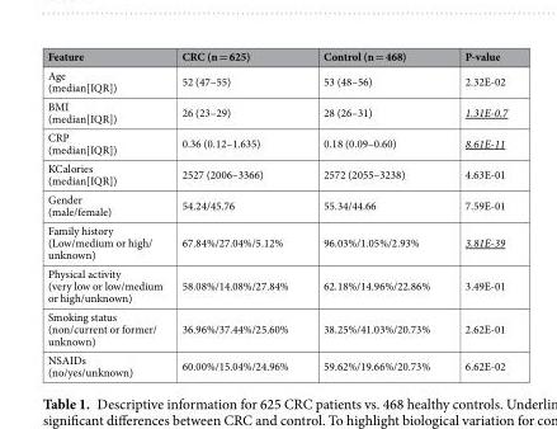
<table><thead><tr><td>Feature</td><td>CRC (n = 625)</td><td>Control (n = 468)</td><td>P-value</td></tr></thead><tbody><tr><td>Age (median[IQR])</td><td>52 (47–55)</td><td>53 (48–56)</td><td>2.32E-02</td></tr><tr><td>BMI (median[IQR])</td><td>26 (23–29)</td><td>28 (26–31)</td><td>1.31E-0.7</td></tr><tr><td>CRP (median[IQR])</td><td>0.36 (0.12–1.635)</td><td>0.18 (0.09–0.60)</td><td>8.61E-11</td></tr><tr><td>KCalories (median[IQR])</td><td>2527 (2006–3366)</td><td>2572 (2055–3238)</td><td>4.63E-01</td></tr><tr><td>Gender (male/female)</td><td>54.24/45.76</td><td>55.34/44.66</td><td>7.59E-01</td></tr><tr><td>Family history (Low/medium or high/ unknown)</td><td>67.84%/27.04%/5.12%</td><td>96.03%/1.05%/2.93%</td><td>3.81E-39</td></tr><tr><td>Physical activity (very low or low/medium or high/unknown)</td><td>58.08%/14.08%/27.84%</td><td>62.18%/14.96%/22.86%</td><td>3.49E-01</td></tr><tr><td>Smoking status (non/current or former/ unknown)</td><td>36.96%/37.44%/25.60%</td><td>38.25%/41.03%/20.73%</td><td>2.62E-01</td></tr><tr><td>NSAIDs (no/yes/unknown)</td><td>60.00%/15.04%/24.96%</td><td>59.62%/19.66%/20.73%</td><td>6.62E-02</td></tr></tbody></table>